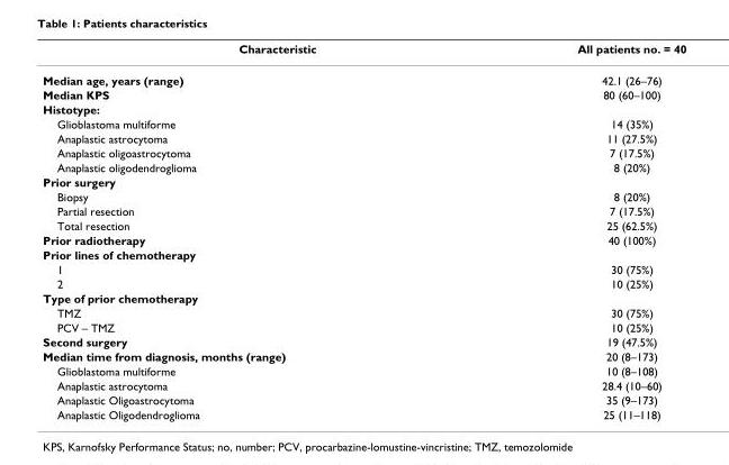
<table><thead><tr><td>Characteristic</td><td>All patients no. = 40</td></tr></thead><tbody><tr><td>Median age, years (range)</td><td>42.1 (26–76)</td></tr><tr><td>Median KPS</td><td>80 (60–100)</td></tr><tr><td colspan="2">Histotype:</td></tr><tr><td>Glioblastoma multiforme</td><td>14 (35%)</td></tr><tr><td>Anaplastic astrocytoma</td><td>11 (27.5%)</td></tr><tr><td>Anaplastic oligoastrocytoma</td><td>7 (17.5%)</td></tr><tr><td>Anaplastic oligodendroglioma</td><td>8 (20%)</td></tr><tr><td colspan="2">Prior surgery</td></tr><tr><td>Biopsy</td><td>8 (20%)</td></tr><tr><td>Partial resection</td><td>7 (17.5%)</td></tr><tr><td>Total resection</td><td>25 (62.5%)</td></tr><tr><td>Prior radiotherapy</td><td>40 (100%)</td></tr><tr><td colspan="2">Prior lines of chemotherapy</td></tr><tr><td>1</td><td>30 (75%)</td></tr><tr><td>2</td><td>10 (25%)</td></tr><tr><td colspan="2">Type of prior chemotherapy</td></tr><tr><td>TMZ</td><td>30 (75%)</td></tr><tr><td>PCV – TMZ</td><td>10 (25%)</td></tr><tr><td>Second surgery</td><td>19 (47.5%)</td></tr><tr><td>Median time from diagnosis, months (range)</td><td>20 (8–173)</td></tr><tr><td>Glioblastoma multiforme</td><td>10 (8–108)</td></tr><tr><td>Anaplastic astrocytoma</td><td>28.4 (10–60)</td></tr><tr><td>Anaplastic Oligoastrocytoma</td><td>35 (9–173)</td></tr><tr><td>Anaplastic Oligodendroglioma</td><td>25 (11–118)</td></tr></tbody></table>